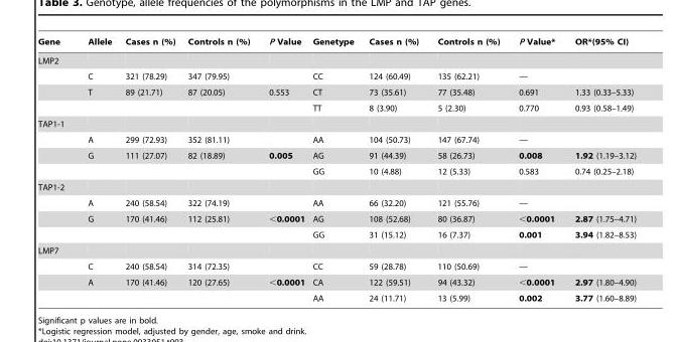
<table><thead><tr><td>Gene</td><td>Allele</td><td>Cases n (%)</td><td>Controls n (%)</td><td>P Value</td><td>Genetype</td><td>Cases n (%)</td><td>Controls n (%)</td><td>P Value*</td><td>OR*(95% CI)</td></tr></thead><tbody><tr><td colspan="10">LMP2</td></tr><tr><td></td><td>C</td><td>321 (78.29)</td><td>347 (79.95)</td><td></td><td>CC</td><td>124 (60.49)</td><td>135 (62.21)</td><td>—</td><td></td></tr><tr><td></td><td>T</td><td>89 (21.71)</td><td>87 (20.05)</td><td>0.553</td><td>CT</td><td>73 (35.61)</td><td>77 (35.48)</td><td>0.691</td><td>1.33 (0.33–5.33)</td></tr><tr><td></td><td></td><td></td><td></td><td></td><td>TT</td><td>8 (3.90)</td><td>5 (2.30)</td><td>0.770</td><td>0.93 (0.58–1.49)</td></tr><tr><td colspan="10">TAP1-1</td></tr><tr><td></td><td>A</td><td>299 (72.93)</td><td>352 (81.11)</td><td></td><td>AA</td><td>104 (50.73)</td><td>147 (67.74)</td><td>—</td><td></td></tr><tr><td></td><td>G</td><td>111 (27.07)</td><td>82 (18.89)</td><td>0.005</td><td>AG</td><td>91 (44.39)</td><td>58 (26.73)</td><td>0.008</td><td>1.92 (1.19–3.12)</td></tr><tr><td></td><td></td><td></td><td></td><td></td><td>GG</td><td>10 (4.88)</td><td>12 (5.33)</td><td>0.583</td><td>0.74 (0.25–2.18)</td></tr><tr><td colspan="10">TAP1-2</td></tr><tr><td></td><td>A</td><td>240 (58.54)</td><td>322 (74.19)</td><td></td><td>AA</td><td>66 (32.20)</td><td>121 (55.76)</td><td>—</td><td></td></tr><tr><td></td><td>G</td><td>170 (41.46)</td><td>112 (25.81)</td><td>&lt;0.0001</td><td>AG</td><td>108 (52.68)</td><td>80 (36.87)</td><td>&lt;0.0001</td><td>2.87 (1.75–4.71)</td></tr><tr><td></td><td></td><td></td><td></td><td></td><td>GG</td><td>31 (15.12)</td><td>16 (7.37)</td><td>0.001</td><td>3.94 (1.82–8.53)</td></tr><tr><td colspan="10">LMP7</td></tr><tr><td></td><td>C</td><td>240 (58.54)</td><td>314 (72.35)</td><td></td><td>CC</td><td>59 (28.78)</td><td>110 (50.69)</td><td>—</td><td></td></tr><tr><td></td><td>A</td><td>170 (41.46)</td><td>120 (27.65)</td><td>&lt;0.0001</td><td>CA</td><td>122 (59.51)</td><td>94 (43.32)</td><td>&lt;0.0001</td><td>2.97 (1.80–4.90)</td></tr><tr><td></td><td></td><td></td><td></td><td></td><td>AA</td><td>24 (11.71)</td><td>13 (5.99)</td><td>0.002</td><td>3.77 (1.60–8.89)</td></tr></tbody></table>